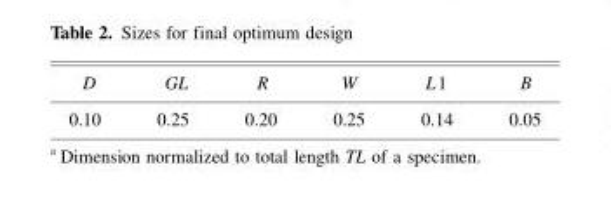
<table><thead><tr><td>D</td><td>GL</td><td>R</td><td>W</td><td>L1</td><td>B</td></tr></thead><tbody><tr><td>0.10</td><td>0.25</td><td>0.20</td><td>0.25</td><td>0.14</td><td>0.05</td></tr></tbody></table>